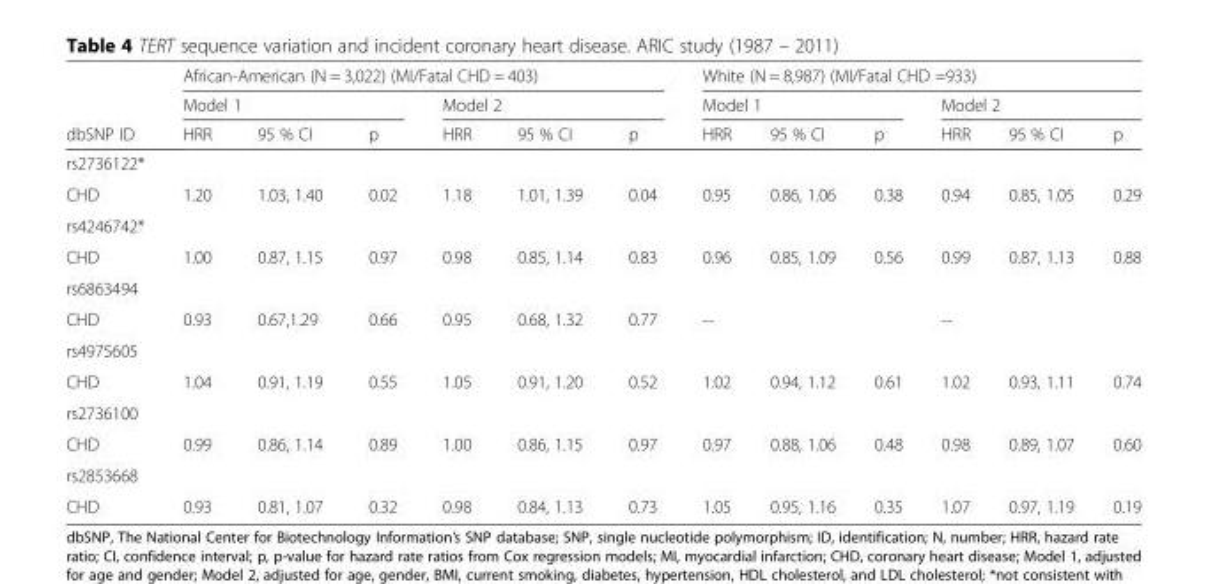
<table><thead><tr><td rowspan="3">dbSNP ID</td><td colspan="6">African-American (N = 3,022) (MI/Fatal CHD = 403)</td><td colspan="6">White (N = 8,987) (MI/Fatal CHD =933)</td></tr><tr><td colspan="3">Model 1</td><td colspan="3">Model 2</td><td colspan="3">Model 1</td><td colspan="3">Model 2</td></tr><tr><td>HRR</td><td>95 % CI</td><td>p</td><td>HRR</td><td>95 % CI</td><td>p</td><td>HRR</td><td>95 % CI</td><td>p</td><td>HRR</td><td>95 % CI</td><td>p</td></tr></thead><tbody><tr><td colspan="13">rs2736122*</td></tr><tr><td>CHD</td><td>1.20</td><td>1.03, 1.40</td><td>0.02</td><td>1.18</td><td>1.01, 1.39</td><td>0.04</td><td>0.95</td><td>0.86, 1.06</td><td>0.38</td><td>0.94</td><td>0.85, 1.05</td><td>0.29</td></tr><tr><td colspan="13">rs4246742*</td></tr><tr><td>CHD</td><td>1.00</td><td>0.87, 1.15</td><td>0.97</td><td>0.98</td><td>0.85, 1.14</td><td>0.83</td><td>0.96</td><td>0.85, 1.09</td><td>0.56</td><td>0.99</td><td>0.87, 1.13</td><td>0.88</td></tr><tr><td colspan="13">rs6863494</td></tr><tr><td>CHD</td><td>0.93</td><td>0.67,1.29</td><td>0.66</td><td>0.95</td><td>0.68, 1.32</td><td>0.77</td><td>--</td><td></td><td></td><td>--</td><td></td><td></td></tr><tr><td colspan="13">rs4975605</td></tr><tr><td>CHD</td><td>1.04</td><td>0.91, 1.19</td><td>0.55</td><td>1.05</td><td>0.91, 1.20</td><td>0.52</td><td>1.02</td><td>0.94, 1.12</td><td>0.61</td><td>1.02</td><td>0.93, 1.11</td><td>0.74</td></tr><tr><td colspan="13">rs2736100</td></tr><tr><td>CHD</td><td>0.99</td><td>0.86, 1.14</td><td>0.89</td><td>1.00</td><td>0.86, 1.15</td><td>0.97</td><td>0.97</td><td>0.88, 1.06</td><td>0.48</td><td>0.98</td><td>0.89, 1.07</td><td>0.60</td></tr><tr><td colspan="13">rs2853668</td></tr><tr><td>CHD</td><td>0.93</td><td>0.81, 1.07</td><td>0.32</td><td>0.98</td><td>0.84, 1.13</td><td>0.73</td><td>1.05</td><td>0.95, 1.16</td><td>0.35</td><td>1.07</td><td>0.97, 1.19</td><td>0.19</td></tr></tbody></table>